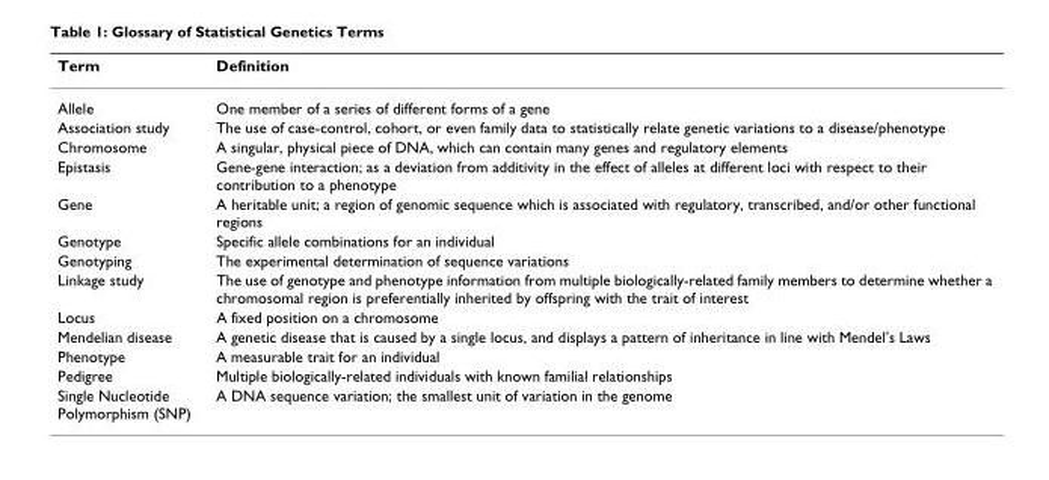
<table><thead><tr><td>Term</td><td>Definition</td></tr></thead><tbody><tr><td>Allele</td><td>One member of a series of different forms of a gene</td></tr><tr><td>Association study</td><td>The use of case-control, cohort, or even family data to statistically relate genetic variations to a disease/phenotype</td></tr><tr><td>Chromosome</td><td>A singular, physical piece of DNA, which can contain many genes and regulatory elements</td></tr><tr><td>Epistasis</td><td>Gene-gene interaction; as a deviation from additivity in the effect of alleles at different loci with respect to their contribution to a phenotype</td></tr><tr><td>Gene</td><td>A heritable unit; a region of genomic sequence which is associated with regulatory, transcribed, and/or other functional regions</td></tr><tr><td>Genotype</td><td>Specific allele combinations for an individual</td></tr><tr><td>Genotyping</td><td>The experimental determination of sequence variations</td></tr><tr><td>Linkage study</td><td>The use of genotype and phenotype information from multiple biologically-related family members to determine whether a chromosomal region is preferentially inherited by offspring with the trait of interest</td></tr><tr><td>Locus</td><td>A fixed position on a chromosome</td></tr><tr><td>Mendelian disease</td><td>A genetic disease that is caused by a single locus, and displays a pattern of inheritance in line with Mendel&#x27;s Laws</td></tr><tr><td>Phenotype</td><td>A measurable trait for an individual</td></tr><tr><td>Pedigree</td><td>Multiple biologically-related individuals with known familial relationships</td></tr><tr><td>Single Nucleotide Polymorphism (SNP)</td><td>A DNA sequence variation; the smallest unit of variation in the genome</td></tr></tbody></table>